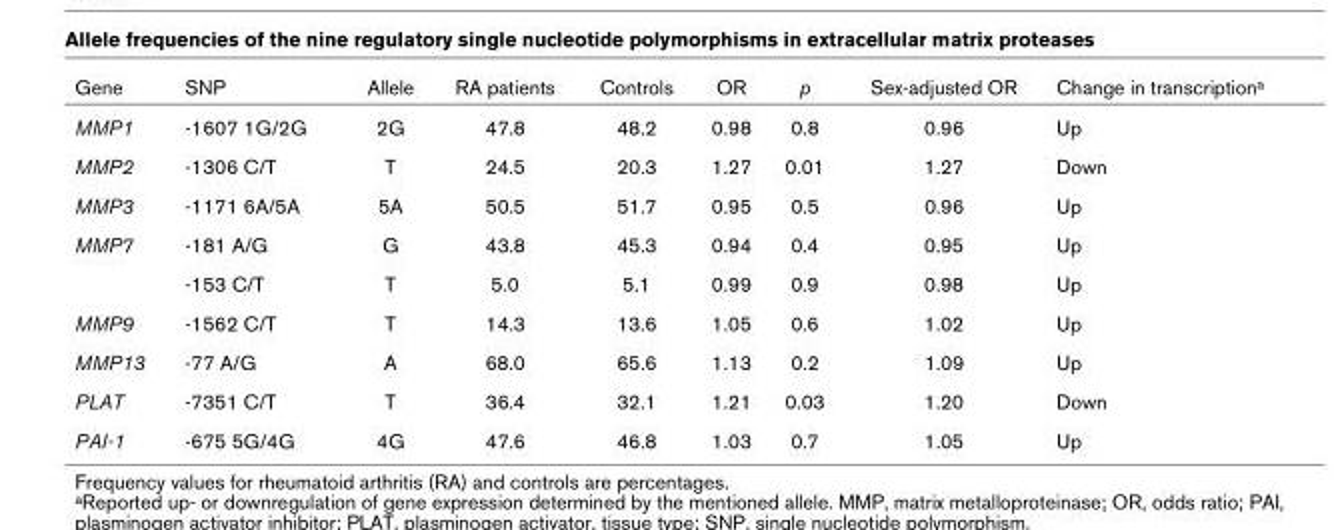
<table><thead><tr><td>Gene</td><td>SNP</td><td>Allele</td><td>RA patients</td><td>Controls</td><td>OR</td><td>p</td><td>Sex-adjusted OR</td><td>Change in transcriptiona</td></tr></thead><tbody><tr><td>MMP1</td><td>-1607 1G/2G</td><td>2G</td><td>47.8</td><td>48.2</td><td>0.98</td><td>0.8</td><td>0.96</td><td>Up</td></tr><tr><td>MMP2</td><td>-1306 C/T</td><td>T</td><td>24.5</td><td>20.3</td><td>1.27</td><td>0.01</td><td>1.27</td><td>Down</td></tr><tr><td>MMP3</td><td>-1171 6A/5A</td><td>5A</td><td>50.5</td><td>51.7</td><td>0.95</td><td>0.5</td><td>0.96</td><td>Up</td></tr><tr><td rowspan="2">MMP7</td><td>-181 A/G</td><td>G</td><td>43.8</td><td>45.3</td><td>0.94</td><td>0.4</td><td>0.95</td><td>Up</td></tr><tr><td>-153 C/T</td><td>T</td><td>5.0</td><td>5.1</td><td>0.99</td><td>0.9</td><td>0.98</td><td>Up</td></tr><tr><td>MMP9</td><td>-1562 C/T</td><td>T</td><td>14.3</td><td>13.6</td><td>1.05</td><td>0.6</td><td>1.02</td><td>Up</td></tr><tr><td>MMP13</td><td>-77 A/G</td><td>A</td><td>68.0</td><td>65.6</td><td>1.13</td><td>0.2</td><td>1.09</td><td>Up</td></tr><tr><td>PLAT</td><td>-7351 C/T</td><td>T</td><td>36.4</td><td>32.1</td><td>1.21</td><td>0.03</td><td>1.20</td><td>Down</td></tr><tr><td>PAI-1</td><td>-675 5G/4G</td><td>4G</td><td>47.6</td><td>46.8</td><td>1.03</td><td>0.7</td><td>1.05</td><td>Up</td></tr></tbody></table>